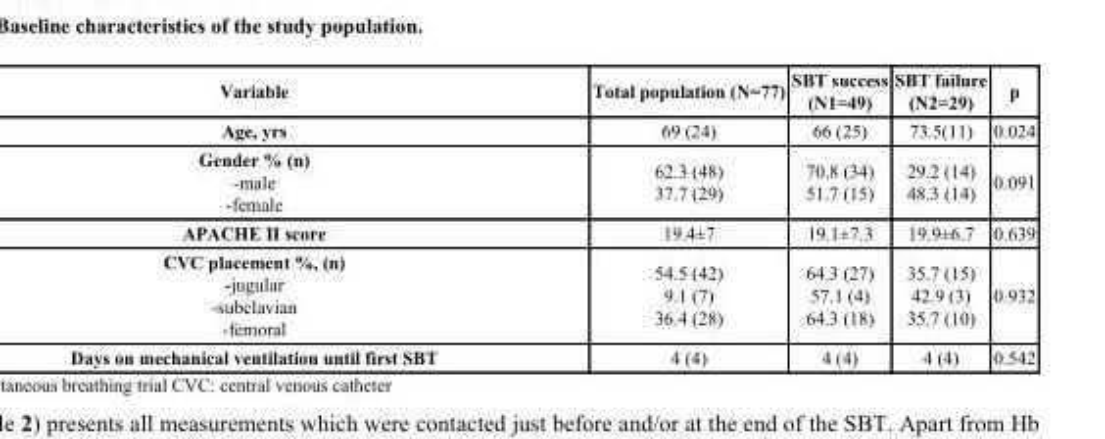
<table><thead><tr><td>Variable</td><td>Total population (N=77)</td><td>SBT success (N1=49)</td><td>SBT failure (N2=29)</td><td>p</td></tr></thead><tbody><tr><td>Age, yrs</td><td>69 (24)</td><td>66 (25)</td><td>73.5(11)</td><td>0.024</td></tr><tr><td>Gender % (n) -male -female</td><td>62.3 (48) 37.7 (29)</td><td>70.8 (34) 51.7 (15)</td><td>29.2 (14) 48.3 (14)</td><td>0.091</td></tr><tr><td>APACHE II score</td><td>19.4±7</td><td>19.1±7.3</td><td>19.9±6.7</td><td>0.639</td></tr><tr><td>CVC placement %, (n) -jugular -subclavian -femoral</td><td>54.5 (42) 9.1 (7) 36.4 (28)</td><td>64.3 (27) 57.1 (4) 64.3 (18)</td><td>35.7 (15) 42.9 (3) 35.7 (10)</td><td>0.932</td></tr><tr><td>Days on mechanical ventilation until first SBT</td><td>4 (4)</td><td>4 (4)</td><td>4 (4)</td><td>0.542</td></tr></tbody></table>